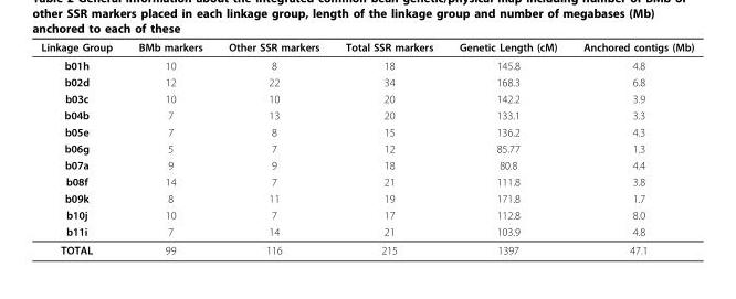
<table><thead><tr><td>Linkage Group</td><td>BMb markers</td><td>Other SSR markers</td><td>Total SSR markers</td><td>Genetic Length (cM)</td><td>Anchored contigs (Mb)</td></tr></thead><tbody><tr><td>b01h</td><td>10</td><td>8</td><td>18</td><td>145.8</td><td>4.8</td></tr><tr><td>b02d</td><td>12</td><td>22</td><td>34</td><td>168.3</td><td>6.8</td></tr><tr><td>b03c</td><td>10</td><td>10</td><td>20</td><td>142.2</td><td>3.9</td></tr><tr><td>b04b</td><td>7</td><td>13</td><td>20</td><td>133.1</td><td>3.3</td></tr><tr><td>b05e</td><td>7</td><td>8</td><td>15</td><td>136.2</td><td>4.3</td></tr><tr><td>b06g</td><td>5</td><td>7</td><td>12</td><td>85.77</td><td>1.3</td></tr><tr><td>b07a</td><td>9</td><td>9</td><td>18</td><td>80.8</td><td>4.4</td></tr><tr><td>b08f</td><td>14</td><td>7</td><td>21</td><td>111.8</td><td>3.8</td></tr><tr><td>b09k</td><td>8</td><td>11</td><td>19</td><td>171.8</td><td>1.7</td></tr><tr><td>b10j</td><td>10</td><td>7</td><td>17</td><td>112.8</td><td>8.0</td></tr><tr><td>b11i</td><td>7</td><td>14</td><td>21</td><td>103.9</td><td>4.8</td></tr><tr><td>TOTAL</td><td>99</td><td>116</td><td>215</td><td>1397</td><td>47.1</td></tr></tbody></table>